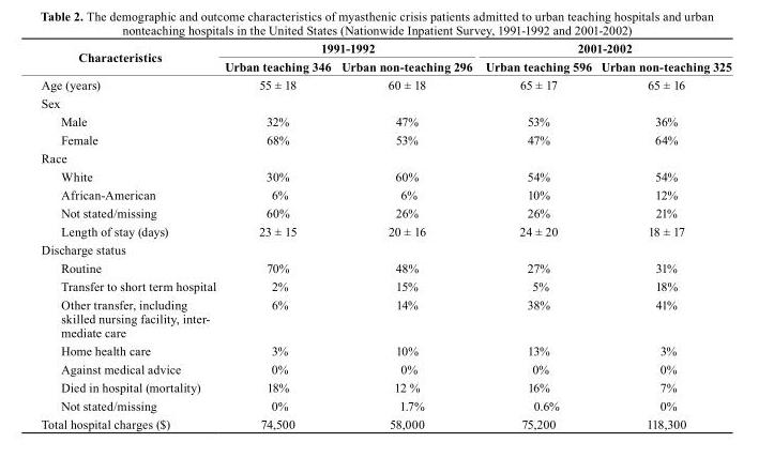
<table><thead><tr><td rowspan="2">characteristics</td><td colspan="2">1991-1992</td><td colspan="2">2001-2002</td></tr><tr><td>Urban teaching 346</td><td>Urban non-teaching 296</td><td>Urban teaching 596</td><td>Urban non-teaching 325</td></tr></thead><tbody><tr><td>Age (years)</td><td>55 ± 18</td><td>60 ± 18</td><td>65 ± 17</td><td>65 ± 16</td></tr><tr><td colspan="5">Sex</td></tr><tr><td>Male</td><td>32%</td><td>47%</td><td>53%</td><td>36%</td></tr><tr><td>Female</td><td>68%</td><td>53%</td><td>47%</td><td>64%</td></tr><tr><td colspan="5">Race</td></tr><tr><td>White</td><td>30%</td><td>60%</td><td>54%</td><td>54%</td></tr><tr><td>African-American</td><td>6%</td><td>6%</td><td>10%</td><td>12%</td></tr><tr><td>Not stated/missing</td><td>60%</td><td>26%</td><td>26%</td><td>21%</td></tr><tr><td>Length of stay (days)</td><td>23 ± 15</td><td>20 ± 16</td><td>24 ± 20</td><td>18 ± 17</td></tr><tr><td colspan="5">Discharge status</td></tr><tr><td>Routine</td><td>70%</td><td>48%</td><td>27%</td><td>31%</td></tr><tr><td>Transfer to short term hospital</td><td>2%</td><td>15%</td><td>5%</td><td>18%</td></tr><tr><td>Other transfer, including skilled nursing facility, inter- mediate care</td><td>6%</td><td>14%</td><td>38%</td><td>41%</td></tr><tr><td>Home health care</td><td>3%</td><td>10%</td><td>13%</td><td>3%</td></tr><tr><td>Against medical advice</td><td>0%</td><td>0%</td><td>0%</td><td>0%</td></tr><tr><td>Died in hospital (mortality)</td><td>18%</td><td>12 %</td><td>16%</td><td>7%</td></tr><tr><td>Not stated/missing</td><td>0%</td><td>1.7%</td><td>0.6%</td><td>0%</td></tr><tr><td>Total hospital charges ($)</td><td>74,500</td><td>58,000</td><td>75,200</td><td>118,300</td></tr></tbody></table>